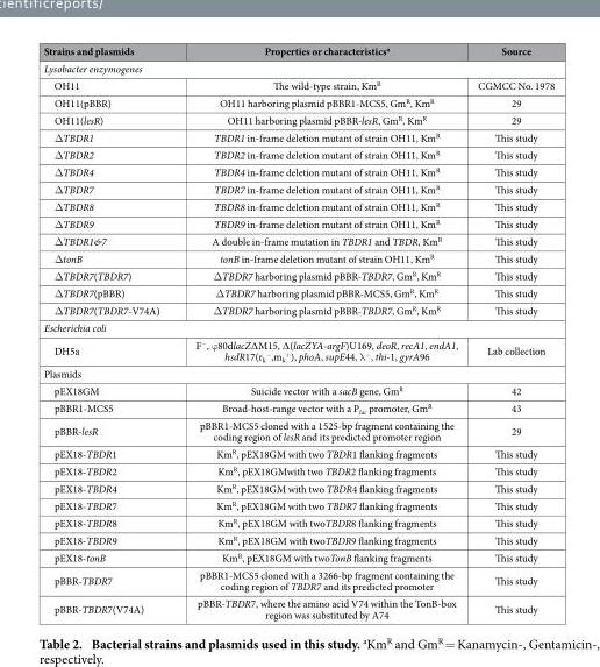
<table><thead><tr><td>Strains and plasmids</td><td>Properties or characteristics<sup>a</sup></td><td>Source</td></tr></thead><tbody><tr><td colspan="3">Lysobacter enzymogenes</td></tr><tr><td>OH11</td><td>The wild-type strain, Km<sup>R</sup></td><td>CGMCC No. 1978</td></tr><tr><td>OH11(pBBR)</td><td>OH11 harboring plasmid pBBR1-MCS5, Gm<sup>R</sup>, Km<sup>R</sup></td><td>29</td></tr><tr><td>OH11(lesR)</td><td>OH11 harboring plasmid pBBR-lesR, Gm<sup>R</sup>, Km<sup>R</sup></td><td>29</td></tr><tr><td>ΔTBDR1</td><td>TBDR1 in-frame deletion mutant of strain OH11, Km<sup>R</sup></td><td>This study</td></tr><tr><td>ΔTBDR2</td><td>TBDR2 in-frame deletion mutant of strain OH11, Km<sup>R</sup></td><td>This study</td></tr><tr><td>ΔTBDR4</td><td>TBDR4 in-frame deletion mutant of strain OH11, Km<sup>R</sup></td><td>This study</td></tr><tr><td>ΔTBDR7</td><td>TBDR7 in-frame deletion mutant of strain OH11, Km<sup>R</sup></td><td>This study</td></tr><tr><td>ΔTBDR8</td><td>TBDR8 in-frame deletion mutant of strain OH11, Km<sup>R</sup></td><td>This study</td></tr><tr><td>ΔTBDR9</td><td>TBDR9 in-frame deletion mutant of strain OH11, Km<sup>R</sup></td><td>This study</td></tr><tr><td>ΔTBDR1&amp;7</td><td>A double in-frame mutation in TBDR1 and TBDR, Km<sup>R</sup></td><td>This study</td></tr><tr><td>ΔtonB</td><td>tonB in-frame deletion mutant of strain OH11, Km<sup>R</sup></td><td>This study</td></tr><tr><td>ΔTBDR7(TBDR7)</td><td>ΔTBDR7 harboring plasmid pBBR-TBDR7, Gm<sup>R</sup>, Km<sup>R</sup></td><td>This study</td></tr><tr><td>ΔTBDR7(pBBR)</td><td>ΔTBDR7 harboring plasmid pBBR-MCS5, Gm<sup>R</sup>, Km<sup>R</sup></td><td>This study</td></tr><tr><td>ΔTBDR7(TBDR7-V74A)</td><td>ΔTBDR7 harboring plasmid pBBR-TBDR7, Gm<sup>R</sup>, Km<sup>R</sup></td><td>This study</td></tr><tr><td colspan="3">Escherichia coli</td></tr><tr><td>DH5a</td><td>F<sup>−</sup>, ϕ80dlacZ∆M15, ∆(lacZYA-argF)U169, deoR, recA1, endA1, hsdR17(r<sub>k</sub> <sup>−</sup>,m<sub>k</sub> <sup>+</sup>), phoA, supE44, λ<sup>−</sup>, thi-1, gyrA96</td><td>Lab collection</td></tr><tr><td colspan="3">Plasmids</td></tr><tr><td>pEX18GM</td><td>Suicide vector with a sacB gene, Gm<sup>R</sup></td><td>42</td></tr><tr><td>pBBR1-MCS5</td><td>Broad-host-range vector with a P<sub>lac</sub> promoter, Gm<sup>R</sup></td><td>43</td></tr><tr><td>pBBR-lesR</td><td>pBBR1-MCS5 cloned with a 1525-bp fragment containing the coding region of lesR and its predicted promoter region</td><td>29</td></tr><tr><td>pEX18-TBDR1</td><td>Km<sup>R</sup>, pEX18GM with two TBDR1 flanking fragments</td><td>This study</td></tr><tr><td>pEX18-TBDR2</td><td>Km<sup>R</sup>, pEX18GMwith two TBDR2 flanking fragments</td><td>This study</td></tr><tr><td>pEX18-TBDR4</td><td>Km<sup>R</sup>, pEX18GM with two TBDR4 flanking fragments</td><td>This study</td></tr><tr><td>pEX18-TBDR7</td><td>Km<sup>R</sup>, pEX18GM with two TBDR7 flanking fragments</td><td>This study</td></tr><tr><td>pEX18-TBDR8</td><td>Km<sup>R</sup>, pEX18GM with twoTBDR8 flanking fragments</td><td>This study</td></tr><tr><td>pEX18-TBDR9</td><td>Km<sup>R</sup>, pEX18GM with twoTBDR9 flanking fragments</td><td>This study</td></tr><tr><td>pEX18-tonB</td><td>Km<sup>R</sup>, pEX18GM with twoTonB flanking fragments</td><td>This study</td></tr><tr><td>pBBR-TBDR7</td><td>pBBR1-MCS5 cloned with a 3266-bp fragment containing the coding region of TBDR7 and its predicted promoter</td><td>This study</td></tr><tr><td>pBBR-TBDR7(V74A)</td><td>pBBR-TBDR7, where the amino acid V74 within the TonB-box region was substituted by A74</td><td>This study</td></tr></tbody></table>